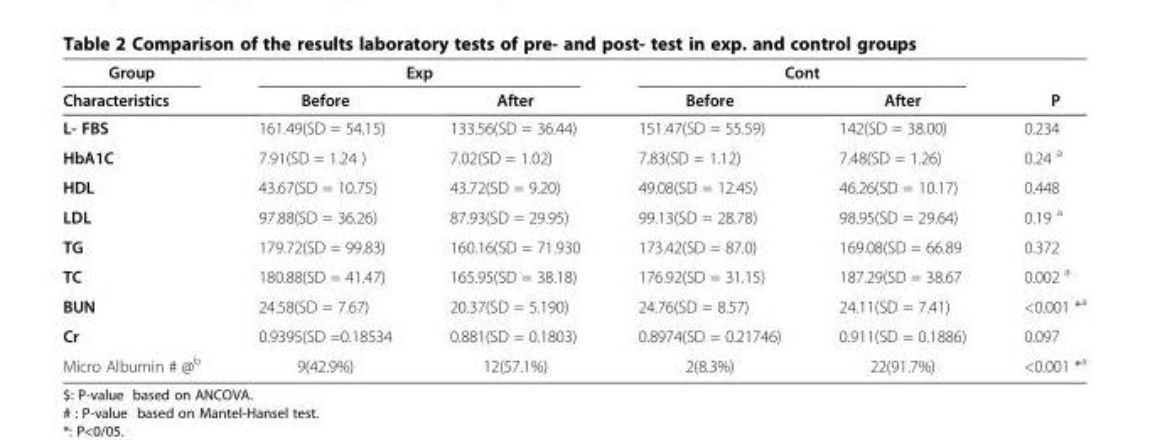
<table><thead><tr><td rowspan="2">Group Characteristics</td><td colspan="2">Exp</td><td colspan="2">Cont</td><td rowspan="2">P</td></tr><tr><td>Before</td><td>After</td><td>Before</td><td>After</td></tr></thead><tbody><tr><td>L- FBS</td><td>161.49(SD = 54.15)</td><td>133.56(SD = 36.44)</td><td>151.47(SD = 55.59)</td><td>142(SD = 38.00)</td><td>0.234</td></tr><tr><td>HbA1C</td><td>7.91(SD = 1.24 )</td><td>7.02(SD = 1.02)</td><td>7.83(SD = 1.12)</td><td>7.48(SD = 1.26)</td><td>0.24 <sup>a</sup></td></tr><tr><td>HDL</td><td>43.67(SD = 10.75)</td><td>43.72(SD = 9.20)</td><td>49.08(SD = 12.45)</td><td>46.26(SD = 10.17)</td><td>0.448</td></tr><tr><td>LDL</td><td>97.88(SD = 36.26)</td><td>87.93(SD = 29.95)</td><td>99.13(SD = 28.78)</td><td>98.95(SD = 29.64)</td><td>0.19 <sup>a</sup></td></tr><tr><td>TG</td><td>179.72(SD = 99.83)</td><td>160.16(SD = 71.930</td><td>173.42(SD = 87.0)</td><td>169.08(SD = 66.89</td><td>0.372</td></tr><tr><td>TC</td><td>180.88(SD = 41.47)</td><td>165.95(SD = 38.18)</td><td>176.92(SD = 31.15)</td><td>187.29(SD = 38.67</td><td>0.002 <sup>a</sup></td></tr><tr><td>BUN</td><td>24.58(SD = 7.67)</td><td>20.37(SD = 5.190)</td><td>24.76(SD = 8.57)</td><td>24.11(SD = 7.41)</td><td>&lt;0.001 *<sup>a</sup></td></tr><tr><td>Cr</td><td>0.9395(SD =0.18534</td><td>0.881(SD = 0.1803)</td><td>0.8974(SD = 0.21746)</td><td>0.911(SD = 0.1886)</td><td>0.097</td></tr><tr><td>Micro Albumin # @<sup>b</sup></td><td>9(42.9%)</td><td>12(57.1%)</td><td>2(8.3%)</td><td>22(91.7%)</td><td>&lt;0.001 *<sup>a</sup></td></tr></tbody></table>